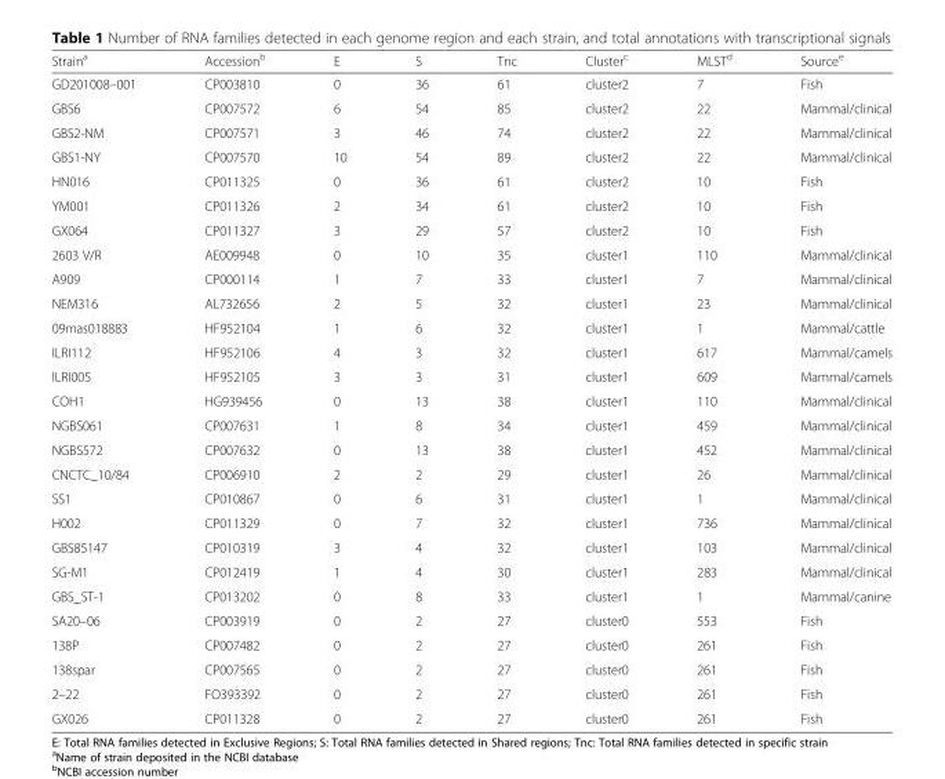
<table><thead><tr><td>Strain<sup>a</sup></td><td>Accession<sup>b</sup></td><td>E</td><td>S</td><td>Tnc</td><td>Cluster<sup>c</sup></td><td>MLST<sup>d</sup></td><td>Source<sup>e</sup></td></tr></thead><tbody><tr><td>GD201008–001</td><td>CP003810</td><td>0</td><td>36</td><td>61</td><td>cluster2</td><td>7</td><td>Fish</td></tr><tr><td>GBS6</td><td>CP007572</td><td>6</td><td>54</td><td>85</td><td>cluster2</td><td>22</td><td>Mammal/clinical</td></tr><tr><td>GBS2-NM</td><td>CP007571</td><td>3</td><td>46</td><td>74</td><td>cluster2</td><td>22</td><td>Mammal/clinical</td></tr><tr><td>GBS1-NY</td><td>CP007570</td><td>10</td><td>54</td><td>89</td><td>cluster2</td><td>22</td><td>Mammal/clinical</td></tr><tr><td>HN016</td><td>CP011325</td><td>0</td><td>36</td><td>61</td><td>cluster2</td><td>10</td><td>Fish</td></tr><tr><td>YM001</td><td>CP011326</td><td>2</td><td>34</td><td>61</td><td>cluster2</td><td>10</td><td>Fish</td></tr><tr><td>GX064</td><td>CP011327</td><td>3</td><td>29</td><td>57</td><td>cluster2</td><td>10</td><td>Fish</td></tr><tr><td>2603 V/R</td><td>AE009948</td><td>0</td><td>10</td><td>35</td><td>cluster1</td><td>110</td><td>Mammal/clinical</td></tr><tr><td>A909</td><td>CP000114</td><td>1</td><td>7</td><td>33</td><td>cluster1</td><td>7</td><td>Mammal/clinical</td></tr><tr><td>NEM316</td><td>AL732656</td><td>2</td><td>5</td><td>32</td><td>cluster1</td><td>23</td><td>Mammal/clinical</td></tr><tr><td>09mas018883</td><td>HF952104</td><td>1</td><td>6</td><td>32</td><td>cluster1</td><td>1</td><td>Mammal/cattle</td></tr><tr><td>ILRI112</td><td>HF952106</td><td>4</td><td>3</td><td>32</td><td>cluster1</td><td>617</td><td>Mammal/camels</td></tr><tr><td>ILRI005</td><td>HF952105</td><td>3</td><td>3</td><td>31</td><td>cluster1</td><td>609</td><td>Mammal/camels</td></tr><tr><td>COH1</td><td>HG939456</td><td>0</td><td>13</td><td>38</td><td>cluster1</td><td>110</td><td>Mammal/clinical</td></tr><tr><td>NGBS061</td><td>CP007631</td><td>1</td><td>8</td><td>34</td><td>cluster1</td><td>459</td><td>Mammal/clinical</td></tr><tr><td>NGBS572</td><td>CP007632</td><td>0</td><td>13</td><td>38</td><td>cluster1</td><td>452</td><td>Mammal/clinical</td></tr><tr><td>CNCTC_10/84</td><td>CP006910</td><td>2</td><td>2</td><td>29</td><td>cluster1</td><td>26</td><td>Mammal/clinical</td></tr><tr><td>SS1</td><td>CP010867</td><td>0</td><td>6</td><td>31</td><td>cluster1</td><td>1</td><td>Mammal/clinical</td></tr><tr><td>H002</td><td>CP011329</td><td>0</td><td>7</td><td>32</td><td>cluster1</td><td>736</td><td>Mammal/clinical</td></tr><tr><td>GBS85147</td><td>CP010319</td><td>3</td><td>4</td><td>32</td><td>cluster1</td><td>103</td><td>Mammal/clinical</td></tr><tr><td>SG-M1</td><td>CP012419</td><td>1</td><td>4</td><td>30</td><td>cluster1</td><td>283</td><td>Mammal/clinical</td></tr><tr><td>GBS_ST-1</td><td>CP013202</td><td>0</td><td>8</td><td>33</td><td>cluster1</td><td>1</td><td>Mammal/canine</td></tr><tr><td>SA20–06</td><td>CP003919</td><td>0</td><td>2</td><td>27</td><td>cluster0</td><td>553</td><td>Fish</td></tr><tr><td>138P</td><td>CP007482</td><td>0</td><td>2</td><td>27</td><td>cluster0</td><td>261</td><td>Fish</td></tr><tr><td>138spar</td><td>CP007565</td><td>0</td><td>2</td><td>27</td><td>cluster0</td><td>261</td><td>Fish</td></tr><tr><td>2–22</td><td>FO393392</td><td>0</td><td>2</td><td>27</td><td>cluster0</td><td>261</td><td>Fish</td></tr><tr><td>GX026</td><td>CP011328</td><td>0</td><td>2</td><td>27</td><td>cluster0</td><td>261</td><td>Fish</td></tr></tbody></table>